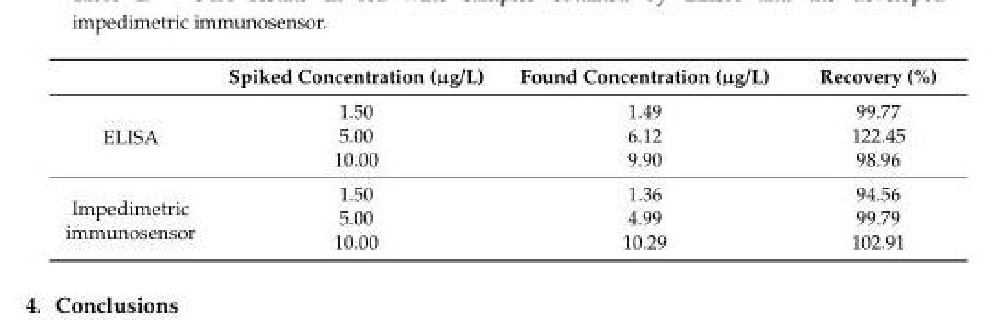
<table><thead><tr><td></td><td>Spiked Concentration (µg/L)</td><td>Found Concentration (µg/L)</td><td>Recovery (%)</td></tr></thead><tbody><tr><td rowspan="3">ELISA</td><td>1.50</td><td>1.49</td><td>99.77</td></tr><tr><td>5.00</td><td>6.12</td><td>122.45</td></tr><tr><td>10.00</td><td>9.90</td><td>98.96</td></tr><tr><td rowspan="3">Impedimetric immunosensor</td><td>1.50</td><td>1.36</td><td>94.56</td></tr><tr><td>5.00</td><td>4.99</td><td>99.79</td></tr><tr><td>10.00</td><td>10.29</td><td>102.91</td></tr></tbody></table>